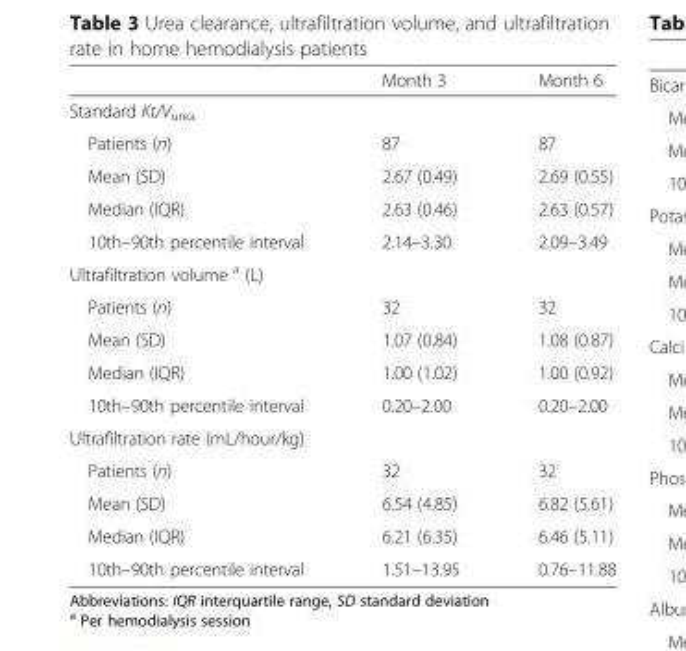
<table><thead><tr><td></td><td>Month 3</td><td>Month 6</td></tr></thead><tbody><tr><td colspan="3">Standard Kt/V<sub>urea</sub></td></tr><tr><td>Patients (n)</td><td>87</td><td>87</td></tr><tr><td>Mean (SD)</td><td>2.67 (0.49)</td><td>2.69 (0.55)</td></tr><tr><td>Median (IQR)</td><td>2.63 (0.46)</td><td>2.63 (0.57)</td></tr><tr><td>10th–90th percentile interval</td><td>2.14–3.30</td><td>2.09–3.49</td></tr><tr><td colspan="3">Ultrafiltration volume <sup>a</sup> (L)</td></tr><tr><td>Patients (n)</td><td>32</td><td>32</td></tr><tr><td>Mean (SD)</td><td>1.07 (0.84)</td><td>1.08 (0.87)</td></tr><tr><td>Median (IQR)</td><td>1.00 (1.02)</td><td>1.00 (0.92)</td></tr><tr><td>10th–90th percentile interval</td><td>0.20–2.00</td><td>0.20–2.00</td></tr><tr><td colspan="3">Ultrafiltration rate (mL/hour/kg)</td></tr><tr><td>Patients (n)</td><td>32</td><td>32</td></tr><tr><td>Mean (SD)</td><td>6.54 (4.85)</td><td>6.82 (5.61)</td></tr><tr><td>Median (IQR)</td><td>6.21 (6.35)</td><td>6.46 (5.11)</td></tr><tr><td>10th–90th percentile interval</td><td>1.51–13.95</td><td>0.76–11.88</td></tr></tbody></table>